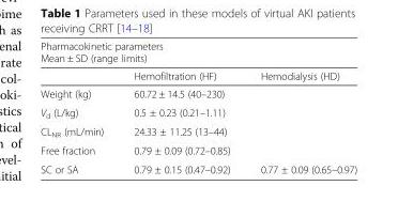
<table><thead><tr><td colspan="3">Pharmacokinetic parameters Mean ± SD (range limits)</td></tr><tr><td></td><td>Hemofiltration (HF)</td><td>Hemodialysis (HD)</td></tr></thead><tbody><tr><td>Weight (kg)</td><td colspan="2">60.72 ± 14.5 (40–230)</td></tr><tr><td>V<sub>d</sub> (L/kg)</td><td colspan="2">0.5 ± 0.23 (0.21–1.11)</td></tr><tr><td>CL<sub>NR</sub> (mL/min)</td><td colspan="2">24.33 ± 11.25 (13–44)</td></tr><tr><td>Free fraction</td><td colspan="2">0.79 ± 0.09 (0.72–0.85)</td></tr><tr><td>SC or SA</td><td>0.79 ± 0.15 (0.47–0.92)</td><td>0.77 ± 0.09 (0.65–0.97)</td></tr></tbody></table>